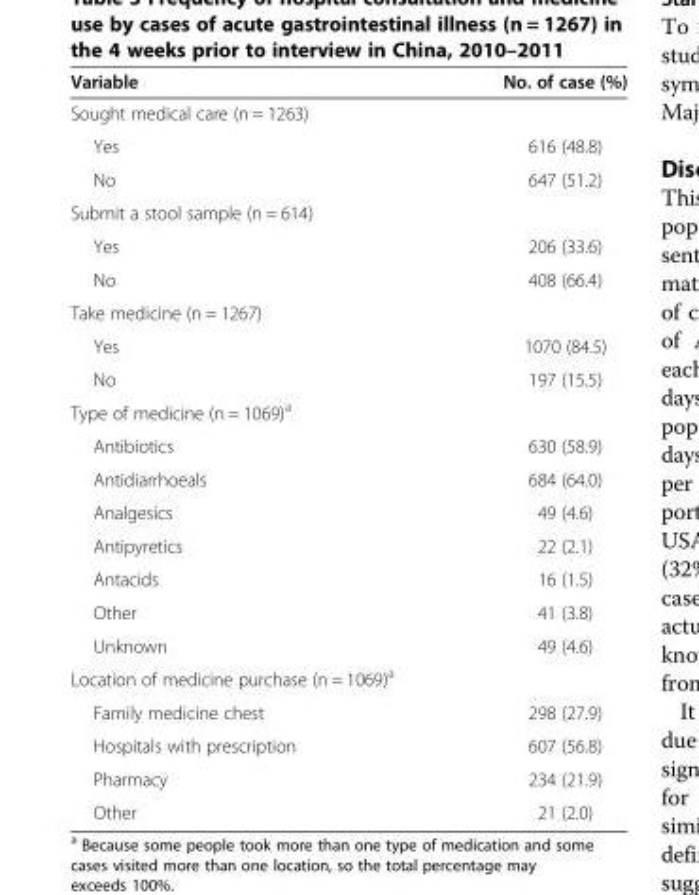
<table><thead><tr><td>Variable</td><td>No. of case (%)</td></tr></thead><tbody><tr><td colspan="2">Sought medical care (n = 1263)</td></tr><tr><td>Yes</td><td>616 (48.8)</td></tr><tr><td>No</td><td>647 (51.2)</td></tr><tr><td colspan="2">Submit a stool sample (n = 614)</td></tr><tr><td>Yes</td><td>206 (33.6)</td></tr><tr><td>No</td><td>408 (66.4)</td></tr><tr><td colspan="2">Take medicine (n = 1267)</td></tr><tr><td>Yes</td><td>1070 (84.5)</td></tr><tr><td>No</td><td>197 (15.5)</td></tr><tr><td colspan="2">Type of medicine (n = 1069)<sup>a</sup></td></tr><tr><td>Antibiotics</td><td>630 (58.9)</td></tr><tr><td>Antidiarrhoeals</td><td>684 (64.0)</td></tr><tr><td>Analgesics</td><td>49 (4.6)</td></tr><tr><td>Antipyretics</td><td>22 (2.1)</td></tr><tr><td>Antacids</td><td>16 (1.5)</td></tr><tr><td>Other</td><td>41 (3.8)</td></tr><tr><td>Unknown</td><td>49 (4.6)</td></tr><tr><td colspan="2">Location of medicine purchase (n = 1069)<sup>a</sup></td></tr><tr><td>Family medicine chest</td><td>298 (27.9)</td></tr><tr><td>Hospitals with prescription</td><td>607 (56.8)</td></tr><tr><td>Pharmacy</td><td>234 (21.9)</td></tr><tr><td>Other</td><td>21 (2.0)</td></tr></tbody></table>